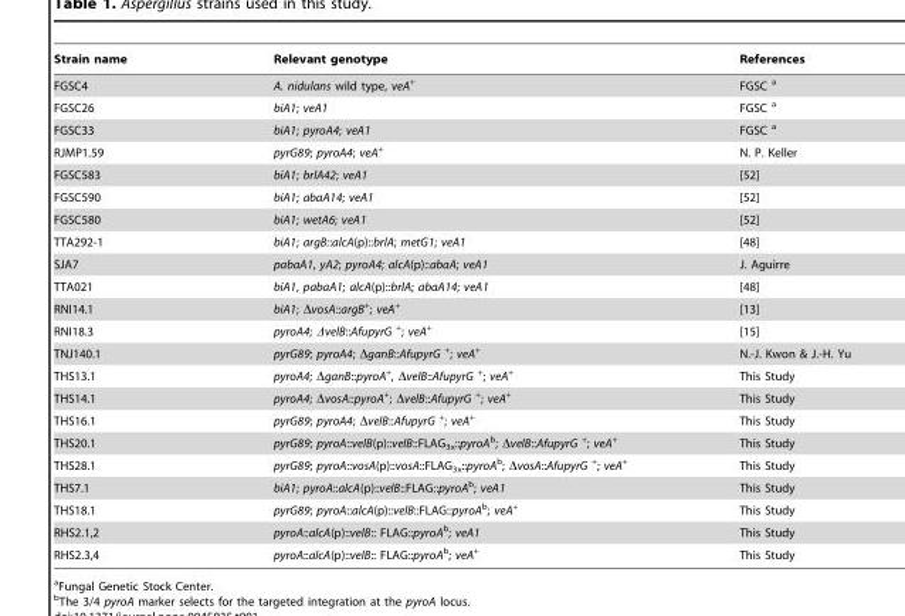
<table><thead><tr><td>Strain name</td><td>Relevant genotype</td><td>References</td></tr></thead><tbody><tr><td>FGSC4</td><td>A. nidulans wild type, veA<sup>+</sup></td><td>FGSC a</td></tr><tr><td>FGSC26</td><td>biA1; veA1</td><td>FGSC a</td></tr><tr><td>FGSC33</td><td>biA1; pyroA4; veA1</td><td>FGSC a</td></tr><tr><td>RJMP1.59</td><td>pyrG89; pyroA4; veA<sup>+</sup></td><td>N. P. Keller</td></tr><tr><td>FGSC583</td><td>biA1; brlA42; veA1</td><td>[52]</td></tr><tr><td>FGSC590</td><td>biA1; abaA14; veA1</td><td>[52]</td></tr><tr><td>FGSC580</td><td>biA1; wetA6; veA1</td><td>[52]</td></tr><tr><td>TTA292-1</td><td>biA1; argB::alcA(p)::brlA; metG1; veA1</td><td>[48]</td></tr><tr><td>SJA7</td><td>pabaA1, yA2; pyroA4; alcA(p)::abaA; veA1</td><td>J. Aguirre</td></tr><tr><td>TTA021</td><td>biA1, pabaA1; alcA(p)::brlA; abaA14; veA1</td><td>[48]</td></tr><tr><td>RNI14.1</td><td>biA1; ΔvosA::argB<sup>+</sup>; veA<sup>+</sup></td><td>[13]</td></tr><tr><td>RNI18.3</td><td>pyroA4; ΔvelB::AfupyrG <sup>+</sup>; veA<sup>+</sup></td><td>[15]</td></tr><tr><td>TNJ140.1</td><td>pyrG89; pyroA4; ΔganB::AfupyrG <sup>+</sup>; veA<sup>+</sup></td><td>N.-J. Kwon &amp; J.-H. Yu</td></tr><tr><td>THS13.1</td><td>pyroA4; ΔganB::pyroA<sup>+</sup>, ΔvelB::AfupyrG <sup>+</sup>; veA<sup>+</sup></td><td>This Study</td></tr><tr><td>THS14.1</td><td>pyroA4; ΔvosA::pyroA<sup>+</sup>; ΔvelB::AfupyrG <sup>+</sup>; veA<sup>+</sup></td><td>This Study</td></tr><tr><td>THS16.1</td><td>pyrG89; pyroA4; ΔvelB::AfupyrG <sup>+</sup>; veA<sup>+</sup></td><td>This Study</td></tr><tr><td>THS20.1</td><td>pyrG89; pyroA::velB(p)::velB::FLAG<sub>3x</sub>::pyroAb; ΔvelB::AfupyrG <sup>+</sup>; veA<sup>+</sup></td><td>This Study</td></tr><tr><td>THS28.1</td><td>pyrG89; pyroA::vosA(p)::vosA::FLAG<sub>3x</sub>::pyroAb; ΔvosA::AfupyrG <sup>+</sup>; veA<sup>+</sup></td><td>This Study</td></tr><tr><td>THS7.1</td><td>biA1; pyroA::alcA(p)::velB::FLAG::pyroAb; veA1</td><td>This Study</td></tr><tr><td>THS18.1</td><td>pyrG89; pyroA::alcA(p)::velB::FLAG::pyroAb; veA<sup>+</sup></td><td>This Study</td></tr><tr><td>RHS2.1,2</td><td>pyroA::alcA(p)::velB:: FLAG::pyroAb; veA1</td><td>This Study</td></tr><tr><td>RHS2.3,4</td><td>pyroA::alcA(p)::velB:: FLAG::pyroAb; veA<sup>+</sup></td><td>This Study</td></tr></tbody></table>